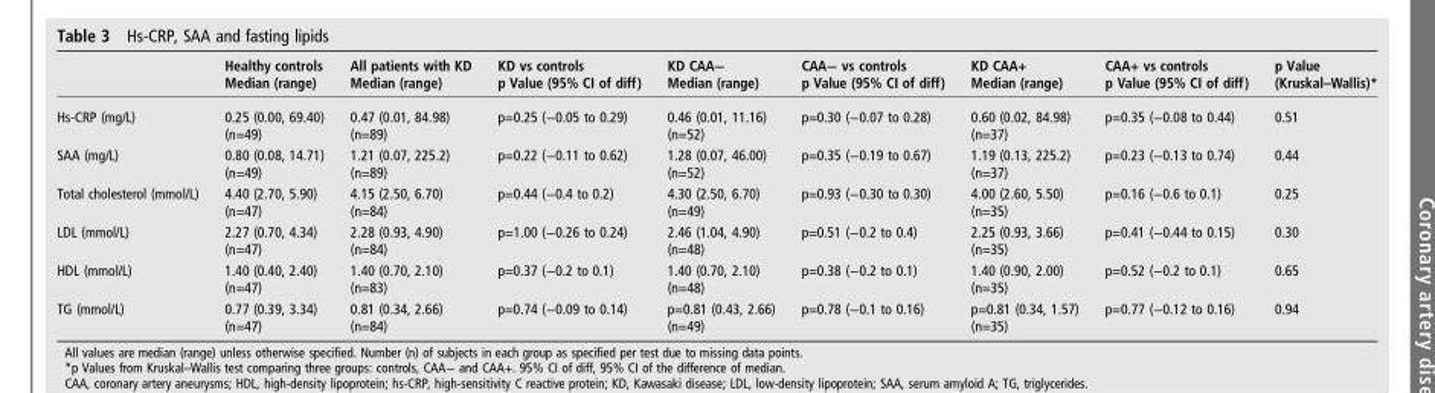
<table><thead><tr><td></td><td>Healthy controls Median (range)</td><td>All patients with KD Median (range)</td><td>KD vs controls p Value (95% CI of diff)</td><td>KD CAA− Median (range)</td><td>CAA− vs controls p Value (95% CI of diff)</td><td>KD CAA+ Median (range)</td><td>CAA+ vs controls p Value (95% CI of diff)</td><td>p Value (Kruskal–Wallis)*</td></tr></thead><tbody><tr><td>Hs-CRP (mg/L)</td><td>0.25 (0.00, 69.40) (n=49)</td><td>0.47 (0.01, 84.98) (n=89)</td><td>p=0.25 (−0.05 to 0.29)</td><td>0.46 (0.01, 11.16) (n=52)</td><td>p=0.30 (−0.07 to 0.28)</td><td>0.60 (0.02, 84.98) (n=37)</td><td>p=0.35 (−0.08 to 0.44)</td><td>0.51</td></tr><tr><td>SAA (mg/L)</td><td>0.80 (0.08, 14.71) (n=49)</td><td>1.21 (0.07, 225.2) (n=89)</td><td>p=0.22 (−0.11 to 0.62)</td><td>1.28 (0.07, 46.00) (n=52)</td><td>p=0.35 (−0.19 to 0.67)</td><td>1.19 (0.13, 225.2) (n=37)</td><td>p=0.23 (−0.13 to 0.74)</td><td>0.44</td></tr><tr><td>Total cholesterol (mmol/L)</td><td>4.40 (2.70, 5.90) (n=47)</td><td>4.15 (2.50, 6.70) (n=84)</td><td>p=0.44 (−0.4 to 0.2)</td><td>4.30 (2.50, 6.70) (n=49)</td><td>p=0.93 (−0.30 to 0.30)</td><td>4.00 (2.60, 5.50) (n=35)</td><td>p=0.16 (−0.6 to 0.1)</td><td>0.25</td></tr><tr><td>LDL (mmol/L)</td><td>2.27 (0.70, 4.34) (n=47)</td><td>2.28 (0.93, 4.90) (n=84)</td><td>p=1.00 (−0.26 to 0.24)</td><td>2.46 (1.04, 4.90) (n=48)</td><td>p=0.51 (−0.2 to 0.4)</td><td>2.25 (0.93, 3.66) (n=35)</td><td>p=0.41 (−0.44 to 0.15)</td><td>0.30</td></tr><tr><td>HDL (mmol/L)</td><td>1.40 (0.40, 2.40) (n=47)</td><td>1.40 (0.70, 2.10) (n=83)</td><td>p=0.37 (−0.2 to 0.1)</td><td>1.40 (0.70, 2.10) (n=48)</td><td>p=0.38 (−0.2 to 0.1)</td><td>1.40 (0.90, 2.00) (n=35)</td><td>p=0.52 (−0.2 to 0.1)</td><td>0.65</td></tr><tr><td>TG (mmol/L)</td><td>0.77 (0.39, 3.34) (n=47)</td><td>0.81 (0.34, 2.66) (n=84)</td><td>p=0.74 (−0.09 to 0.14)</td><td>p=0.81 (0.43, 2.66) (n=49)</td><td>p=0.78 (−0.1 to 0.16)</td><td>p=0.81 (0.34, 1.57) (n=35)</td><td>p=0.77 (−0.12 to 0.16)</td><td>0.94</td></tr></tbody></table>